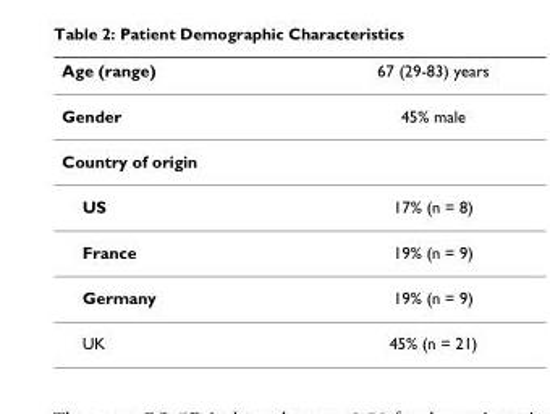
<table><thead><tr><td>Age (range)</td><td>67 (29-83) years</td></tr></thead><tbody><tr><td>Gender</td><td>45% male</td></tr><tr><td colspan="2">Country of origin</td></tr><tr><td>US</td><td>17% (n = 8)</td></tr><tr><td>France</td><td>19% (n = 9)</td></tr><tr><td>Germany</td><td>19% (n = 9)</td></tr><tr><td>UK</td><td>45% (n = 21)</td></tr></tbody></table>